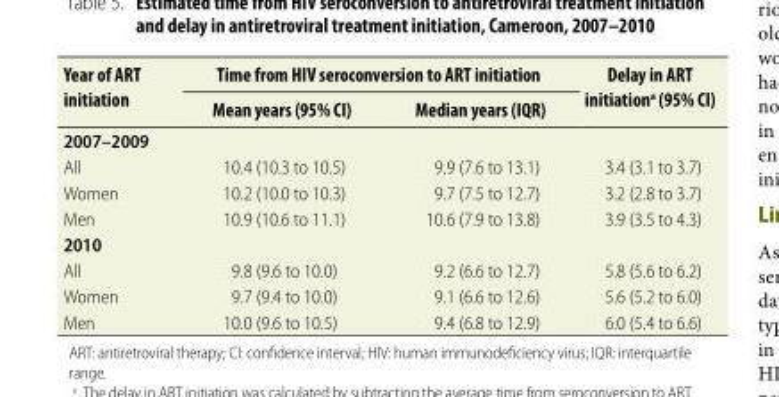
<table><thead><tr><td rowspan="2">Year of ART initiation</td><td colspan="2">Time from HIV seroconversion to ART initiation</td><td rowspan="2">Delay in ART initiation<sup>a</sup> (95% CI)</td></tr><tr><td>Mean years (95% CI)</td><td>Median years (IQR)</td></tr></thead><tbody><tr><td colspan="4">2007–2009</td></tr><tr><td>All</td><td>10.4 (10.3 to 10.5)</td><td>9.9 (7.6 to 13.1)</td><td>3.4 (3.1 to 3.7)</td></tr><tr><td>Women</td><td>10.2 (10.0 to 10.3)</td><td>9.7 (7.5 to 12.7)</td><td>3.2 (2.8 to 3.7)</td></tr><tr><td>Men</td><td>10.9 (10.6 to 11.1)</td><td>10.6 (7.9 to 13.8)</td><td>3.9 (3.5 to 4.3)</td></tr><tr><td colspan="4">2010</td></tr><tr><td>All</td><td>9.8 (9.6 to 10.0)</td><td>9.2 (6.6 to 12.7)</td><td>5.8 (5.6 to 6.2)</td></tr><tr><td>Women</td><td>9.7 (9.4 to 10.0)</td><td>9.1 (6.6 to 12.6)</td><td>5.6 (5.2 to 6.0)</td></tr><tr><td>Men</td><td>10.0 (9.6 to 10.5)</td><td>9.4 (6.8 to 12.9)</td><td>6.0 (5.4 to 6.6)</td></tr></tbody></table>